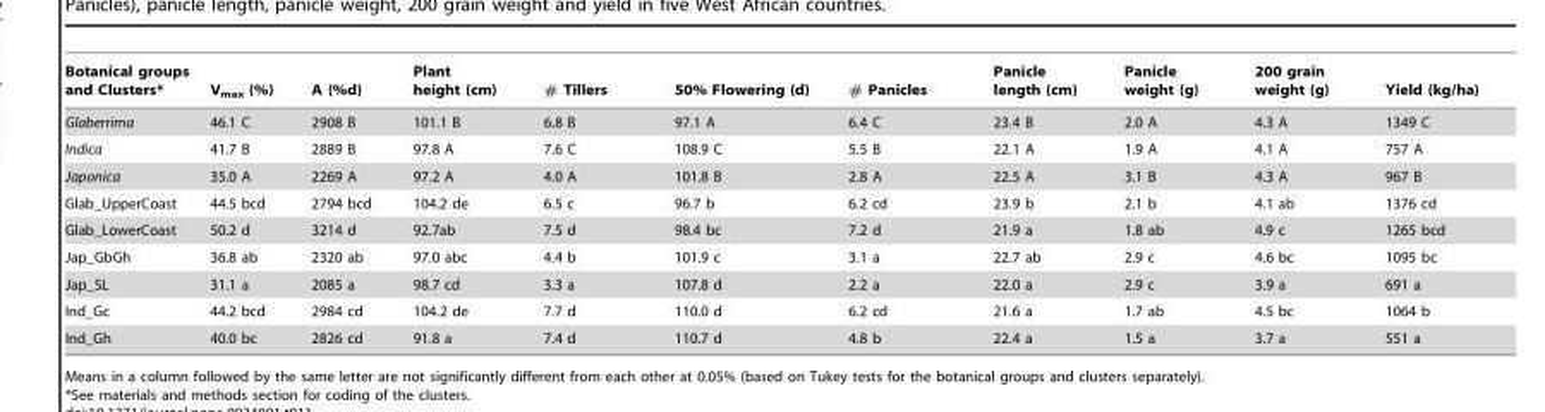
<table><thead><tr><td>Botanical groups and Clusters*</td><td>V<sub>max</sub> (%)</td><td>A (%d)</td><td>Plant height (cm)</td><td># Tillers</td><td>50% Flowering (d)</td><td># Panicles</td><td>Panicle length (cm)</td><td>Panicle weight (g)</td><td>200 grain weight (g)</td><td>Yield (kg/ha)</td></tr></thead><tbody><tr><td>Glaberrima</td><td>46.1 C</td><td>2908 B</td><td>101.1 B</td><td>6.8 B</td><td>97.1 A</td><td>6.4 C</td><td>23.4 B</td><td>2.0 A</td><td>4.3 A</td><td>1349 C</td></tr><tr><td>Indica</td><td>41.7 B</td><td>2889 B</td><td>97.8 A</td><td>7.6 C</td><td>108.9 C</td><td>5.5 B</td><td>22.1 A</td><td>1.9 A</td><td>4.1 A</td><td>757 A</td></tr><tr><td>Japonica</td><td>35.0 A</td><td>2269 A</td><td>97.2 A</td><td>4.0 A</td><td>101.8 B</td><td>2.8 A</td><td>22.5 A</td><td>3.1 B</td><td>4.3 A</td><td>967 B</td></tr><tr><td>Glab_UpperCoast</td><td>44.5 bcd</td><td>2794 bcd</td><td>104.2 de</td><td>6.5 c</td><td>96.7 b</td><td>6.2 cd</td><td>23.9 b</td><td>2.1 b</td><td>4.1 ab</td><td>1376 cd</td></tr><tr><td>Glab_LowerCoast</td><td>50.2 d</td><td>3214 d</td><td>92.7ab</td><td>7.5 d</td><td>98.4 bc</td><td>7.2 d</td><td>21.9 a</td><td>1.8 ab</td><td>4.9 c</td><td>1265 bcd</td></tr><tr><td>Jap_GbGh</td><td>36.8 ab</td><td>2320 ab</td><td>97.0 abc</td><td>4.4 b</td><td>101.9 c</td><td>3.1 a</td><td>22.7 ab</td><td>2.9 c</td><td>4.6 bc</td><td>1095 bc</td></tr><tr><td>Jap_SL</td><td>31.1 a</td><td>2085 a</td><td>98.7 cd</td><td>3.3 a</td><td>107.8 d</td><td>2.2 a</td><td>22.0 a</td><td>2.9 c</td><td>3.9 a</td><td>691 a</td></tr><tr><td>Ind_Gc</td><td>44.2 bcd</td><td>2984 cd</td><td>104.2 de</td><td>7.7 d</td><td>110.0 d</td><td>6.2 cd</td><td>21.6 a</td><td>1.7 ab</td><td>4.5 bc</td><td>1064 b</td></tr><tr><td>Ind_Gh</td><td>40.0 bc</td><td>2826 cd</td><td>91.8 a</td><td>7.4 d</td><td>110.7 d</td><td>4.8 b</td><td>22.4 a</td><td>1.5 a</td><td>3.7 a</td><td>551 a</td></tr></tbody></table>